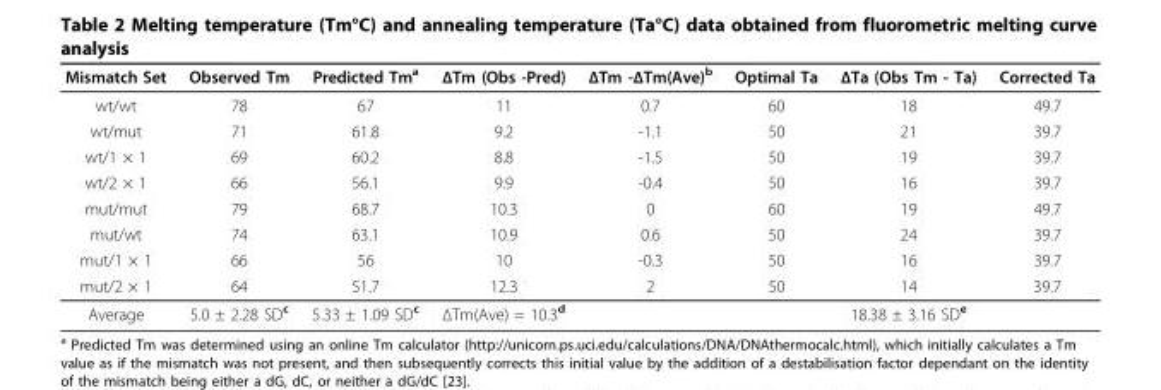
<table><thead><tr><td>Mismatch Set</td><td>Observed Tm</td><td>Predicted Tm<sup>a</sup></td><td>ΔTm (Obs -Pred)</td><td>ΔTm -ΔTm(Ave)<sup>b</sup></td><td>Optimal Ta</td><td>ΔTa (Obs Tm - Ta)</td><td>Corrected Ta</td></tr></thead><tbody><tr><td>wt/wt</td><td>78</td><td>67</td><td>11</td><td>0.7</td><td>60</td><td>18</td><td>49.7</td></tr><tr><td>wt/mut</td><td>71</td><td>61.8</td><td>9.2</td><td>-1.1</td><td>50</td><td>21</td><td>39.7</td></tr><tr><td>wt/1 × 1</td><td>69</td><td>60.2</td><td>8.8</td><td>-1.5</td><td>50</td><td>19</td><td>39.7</td></tr><tr><td>wt/2 × 1</td><td>66</td><td>56.1</td><td>9.9</td><td>-0.4</td><td>50</td><td>16</td><td>39.7</td></tr><tr><td>mut/mut</td><td>79</td><td>68.7</td><td>10.3</td><td>0</td><td>60</td><td>19</td><td>49.7</td></tr><tr><td>mut/wt</td><td>74</td><td>63.1</td><td>10.9</td><td>0.6</td><td>50</td><td>24</td><td>39.7</td></tr><tr><td>mut/1 × 1</td><td>66</td><td>56</td><td>10</td><td>-0.3</td><td>50</td><td>16</td><td>39.7</td></tr><tr><td>mut/2 × 1</td><td>64</td><td>51.7</td><td>12.3</td><td>2</td><td>50</td><td>14</td><td>39.7</td></tr><tr><td>Average</td><td>5.0 ± 2.28 SD<sup>c</sup></td><td>5.33 ± 1.09 SD<sup>c</sup></td><td>ΔTm(Ave) = 10.3<sup>d</sup></td><td></td><td></td><td>18.38 ± 3.16 SD<sup>e</sup></td><td></td></tr></tbody></table>